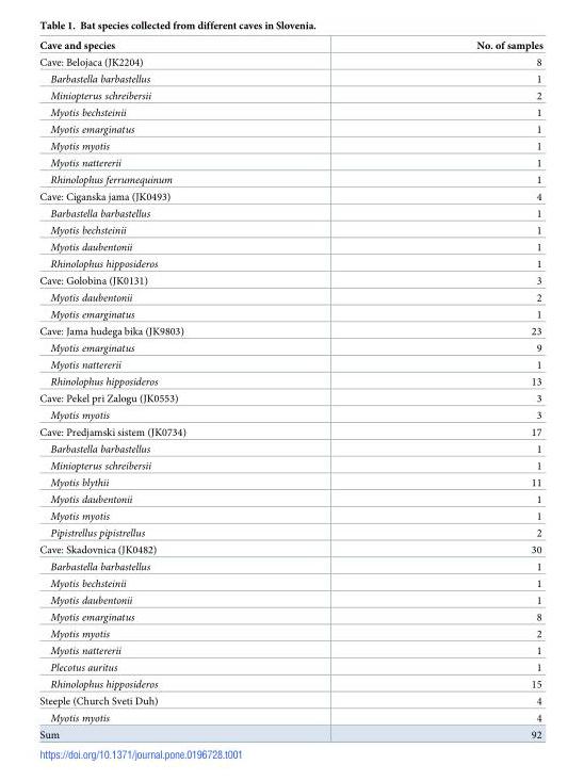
<table><thead><tr><td>Cave and species</td><td>No. of samples</td></tr></thead><tbody><tr><td>Cave: Belojaca (JK2204)</td><td>8</td></tr><tr><td>Barbastella barbastellus</td><td>1</td></tr><tr><td>Miniopterus schreibersii</td><td>2</td></tr><tr><td>Myotis bechsteinii</td><td>1</td></tr><tr><td>Myotis emarginatus</td><td>1</td></tr><tr><td>Myotis myotis</td><td>1</td></tr><tr><td>Myotis nattererii</td><td>1</td></tr><tr><td>Rhinolophus ferrumequinum</td><td>1</td></tr><tr><td>Cave: Ciganska jama (JK0493)</td><td>4</td></tr><tr><td>Barbastella barbastellus</td><td>1</td></tr><tr><td>Myotis bechsteinii</td><td>1</td></tr><tr><td>Myotis daubentonii</td><td>1</td></tr><tr><td>Rhinolophus hipposideros</td><td>1</td></tr><tr><td>Cave: Golobina (JK0131)</td><td>3</td></tr><tr><td>Myotis daubentonii</td><td>2</td></tr><tr><td>Myotis emarginatus</td><td>1</td></tr><tr><td>Cave: Jama hudega bika (JK9803)</td><td>23</td></tr><tr><td>Myotis emarginatus</td><td>9</td></tr><tr><td>Myotis nattererii</td><td>1</td></tr><tr><td>Rhinolophus hipposideros</td><td>13</td></tr><tr><td>Cave: Pekel pri Zalogu (JK0553)</td><td>3</td></tr><tr><td>Myotis myotis</td><td>3</td></tr><tr><td>Cave: Predjamski sistem (JK0734)</td><td>17</td></tr><tr><td>Barbastella barbastellus</td><td>1</td></tr><tr><td>Miniopterus schreibersii</td><td>1</td></tr><tr><td>Myotis blythii</td><td>11</td></tr><tr><td>Myotis daubentonii</td><td>1</td></tr><tr><td>Myotis myotis</td><td>1</td></tr><tr><td>Pipistrellus pipistrellus</td><td>2</td></tr><tr><td>Cave: Skadovnica (JK0482)</td><td>30</td></tr><tr><td>Barbastella barbastellus</td><td>1</td></tr><tr><td>Myotis bechsteinii</td><td>1</td></tr><tr><td>Myotis daubentonii</td><td>1</td></tr><tr><td>Myotis emarginatus</td><td>8</td></tr><tr><td>Myotis myotis</td><td>2</td></tr><tr><td>Myotis nattererii</td><td>1</td></tr><tr><td>Plecotus auritus</td><td>1</td></tr><tr><td>Rhinolophus hipposideros</td><td>15</td></tr><tr><td>Steeple (Church Sveti Duh)</td><td>4</td></tr><tr><td>Myotis myotis</td><td>4</td></tr><tr><td>Sum</td><td>92</td></tr></tbody></table>